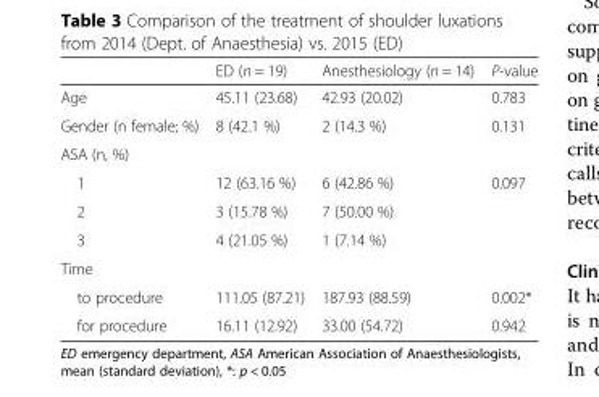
<table><thead><tr><td></td><td>ED (n = 19)</td><td>Anesthesiology (n = 14)</td><td>P-value</td></tr></thead><tbody><tr><td>Age</td><td>45.11 (23.68)</td><td>42.93 (20.02)</td><td>0.783</td></tr><tr><td>Gender (n female; %)</td><td>8 (42.1 %)</td><td>2 (14.3 %)</td><td>0.131</td></tr><tr><td colspan="4">ASA (n, %)</td></tr><tr><td>1</td><td>12 (63.16 %)</td><td>6 (42.86 %)</td><td>0.097</td></tr><tr><td>2</td><td>3 (15.78 %)</td><td>7 (50.00 %)</td><td></td></tr><tr><td>3</td><td>4 (21.05 %)</td><td>1 (7.14 %)</td><td></td></tr><tr><td colspan="4">Time</td></tr><tr><td>to procedure</td><td>111.05 (87.21)</td><td>187.93 (88.59)</td><td>0.002*</td></tr><tr><td>for procedure</td><td>16.11 (12.92)</td><td>33.00 (54.72)</td><td>0.942</td></tr></tbody></table>